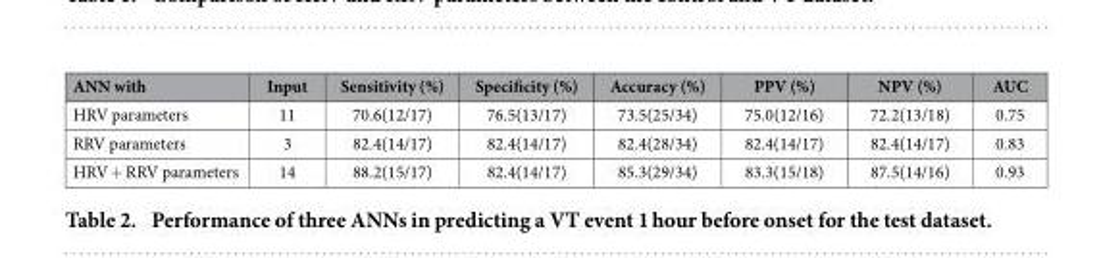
<table><thead><tr><td>ANN with</td><td>Input</td><td>Sensitivity (%)</td><td>Specificity (%)</td><td>Accuracy (%)</td><td>PPV (%)</td><td>NPV (%)</td><td>AUC</td></tr></thead><tbody><tr><td>HRV parameters</td><td>11</td><td>70.6(12/17)</td><td>76.5(13/17)</td><td>73.5(25/34)</td><td>75.0(12/16)</td><td>72.2(13/18)</td><td>0.75</td></tr><tr><td>RRV parameters</td><td>3</td><td>82.4(14/17)</td><td>82.4(14/17)</td><td>82.4(28/34)</td><td>82.4(14/17)</td><td>82.4(14/17)</td><td>0.83</td></tr><tr><td>HRV + RRV parameters</td><td>14</td><td>88.2(15/17)</td><td>82.4(14/17)</td><td>85.3(29/34)</td><td>83.3(15/18)</td><td>87.5(14/16)</td><td>0.93</td></tr></tbody></table>